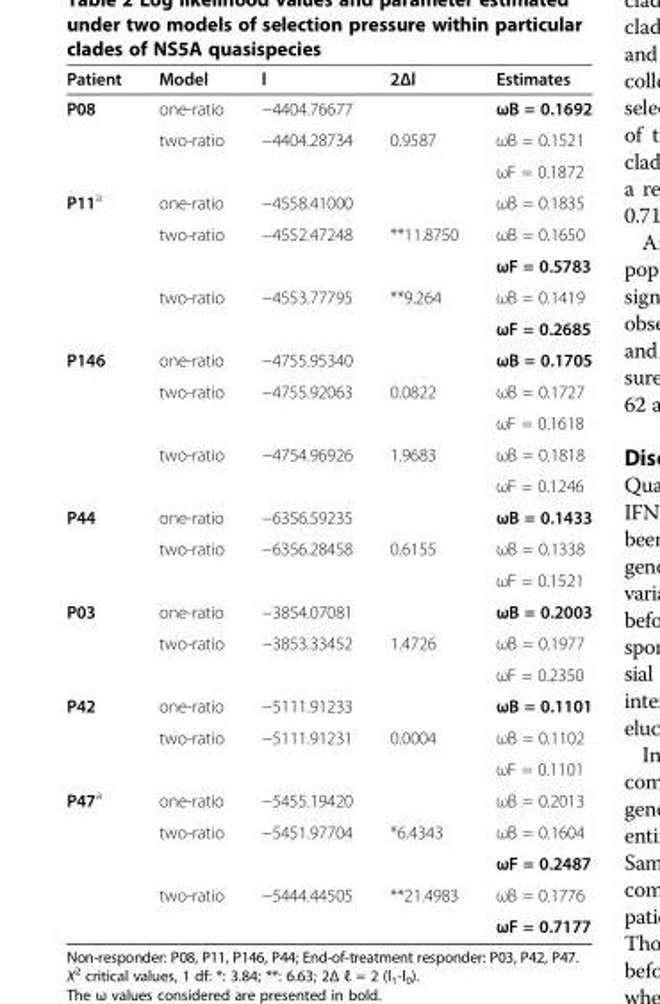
<table><thead><tr><td>Patient</td><td>Model</td><td>l</td><td>2Δl</td><td>Estimates</td></tr></thead><tbody><tr><td rowspan="3">P08</td><td>one-ratio</td><td>−4404.76677</td><td></td><td>ωB = 0.1692</td></tr><tr><td>two-ratio</td><td>−4404.28734</td><td>0.9587</td><td>ωB = 0.1521</td></tr><tr><td></td><td></td><td></td><td>ωF = 0.1872</td></tr><tr><td rowspan="5">P11<sup>a</sup></td><td>one-ratio</td><td>−4558.41000</td><td></td><td>ωB = 0.1835</td></tr><tr><td>two-ratio</td><td>−4552.47248</td><td>**11.8750</td><td>ωB = 0.1650</td></tr><tr><td></td><td></td><td></td><td>ωF = 0.5783</td></tr><tr><td>two-ratio</td><td>−4553.77795</td><td>**9.264</td><td>ωB = 0.1419</td></tr><tr><td></td><td></td><td></td><td>ωF = 0.2685</td></tr><tr><td rowspan="5">P146</td><td>one-ratio</td><td>−4755.95340</td><td></td><td>ωB = 0.1705</td></tr><tr><td>two-ratio</td><td>−4755.92063</td><td>0.0822</td><td>ωB = 0.1727</td></tr><tr><td></td><td></td><td></td><td>ωF = 0.1618</td></tr><tr><td>two-ratio</td><td>−4754.96926</td><td>1.9683</td><td>ωB = 0.1818</td></tr><tr><td></td><td></td><td></td><td>ωF = 0.1246</td></tr><tr><td rowspan="3">P44</td><td>one-ratio</td><td>−6356.59235</td><td></td><td>ωB = 0.1433</td></tr><tr><td>two-ratio</td><td>−6356.28458</td><td>0.6155</td><td>ωB = 0.1338</td></tr><tr><td></td><td></td><td></td><td>ωF = 0.1521</td></tr><tr><td rowspan="3">P03</td><td>one-ratio</td><td>−3854.07081</td><td></td><td>ωB = 0.2003</td></tr><tr><td>two-ratio</td><td>−3853.33452</td><td>1.4726</td><td>ωB = 0.1977</td></tr><tr><td></td><td></td><td></td><td>ωF = 0.2350</td></tr><tr><td rowspan="3">P42</td><td>one-ratio</td><td>−5111.91233</td><td></td><td>ωB = 0.1101</td></tr><tr><td>two-ratio</td><td>−5111.91231</td><td>0.0004</td><td>ωB = 0.1102</td></tr><tr><td></td><td></td><td></td><td>ωF = 0.1101</td></tr><tr><td rowspan="5">P47<sup>a</sup></td><td>one-ratio</td><td>−5455.19420</td><td></td><td>ωB = 0.2013</td></tr><tr><td>two-ratio</td><td>−5451.97704</td><td>*6.4343</td><td>ωB = 0.1604</td></tr><tr><td></td><td></td><td></td><td>ωF = 0.2487</td></tr><tr><td>two-ratio</td><td>−5444.44505</td><td>**21.4983</td><td>ωB = 0.1776</td></tr><tr><td></td><td></td><td></td><td>ωF = 0.7177</td></tr></tbody></table>